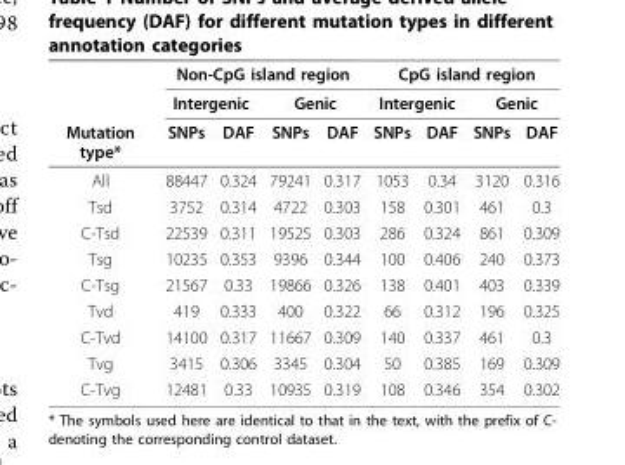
<table><thead><tr><td rowspan="3">Mutation type*</td><td colspan="4">Non-CpG island region</td><td colspan="4">CpG island region</td></tr><tr><td colspan="2">Intergenic</td><td colspan="2">Genic</td><td colspan="2">Intergenic</td><td colspan="2">Genic</td></tr><tr><td>SNPs</td><td>DAF</td><td>SNPs</td><td>DAF</td><td>SNPs</td><td>DAF</td><td>SNPs</td><td>DAF</td></tr></thead><tbody><tr><td>All</td><td>88447</td><td>0.324</td><td>79241</td><td>0.317</td><td>1053</td><td>0.34</td><td>3120</td><td>0.316</td></tr><tr><td>Tsd</td><td>3752</td><td>0.314</td><td>4722</td><td>0.303</td><td>158</td><td>0.301</td><td>461</td><td>0.3</td></tr><tr><td>C-Tsd</td><td>22539</td><td>0.311</td><td>19525</td><td>0.303</td><td>286</td><td>0.324</td><td>861</td><td>0.309</td></tr><tr><td>Tsg</td><td>10235</td><td>0.353</td><td>9396</td><td>0.344</td><td>100</td><td>0.406</td><td>240</td><td>0.373</td></tr><tr><td>C-Tsg</td><td>21567</td><td>0.33</td><td>19866</td><td>0.326</td><td>138</td><td>0.401</td><td>403</td><td>0.339</td></tr><tr><td>Tvd</td><td>419</td><td>0.333</td><td>400</td><td>0.322</td><td>66</td><td>0.312</td><td>196</td><td>0.325</td></tr><tr><td>C-Tvd</td><td>14100</td><td>0.317</td><td>11667</td><td>0.309</td><td>140</td><td>0.337</td><td>461</td><td>0.3</td></tr><tr><td>Tvg</td><td>3415</td><td>0.306</td><td>3345</td><td>0.304</td><td>50</td><td>0.385</td><td>169</td><td>0.309</td></tr><tr><td>C-Tvg</td><td>12481</td><td>0.33</td><td>10935</td><td>0.319</td><td>108</td><td>0.346</td><td>354</td><td>0.302</td></tr></tbody></table>